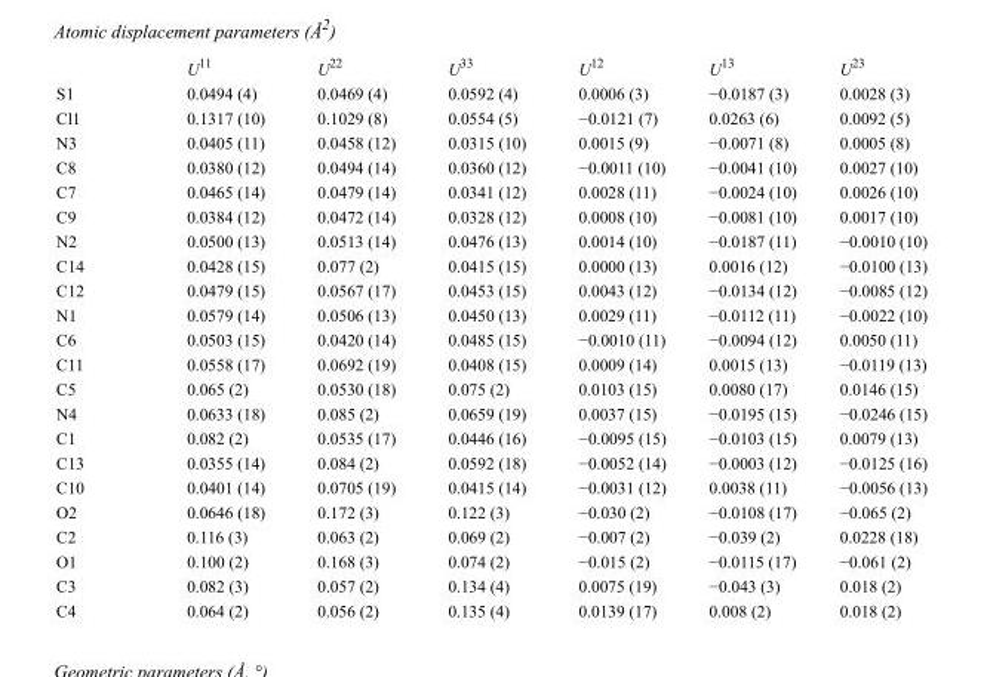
<table><thead><tr><td></td><td>U<sup>11</sup></td><td>U<sup>22</sup></td><td>U<sup>33</sup></td><td>U<sup>12</sup></td><td>U<sup>13</sup></td><td>U<sup>23</sup></td></tr></thead><tbody><tr><td>S1</td><td>0.0494 (4)</td><td>0.0469 (4)</td><td>0.0592 (4)</td><td>0.0006 (3)</td><td>−0.0187 (3)</td><td>0.0028 (3)</td></tr><tr><td>Cl1</td><td>0.1317 (10)</td><td>0.1029 (8)</td><td>0.0554 (5)</td><td>−0.0121 (7)</td><td>0.0263 (6)</td><td>0.0092 (5)</td></tr><tr><td>N3</td><td>0.0405 (11)</td><td>0.0458 (12)</td><td>0.0315 (10)</td><td>0.0015 (9)</td><td>−0.0071 (8)</td><td>0.0005 (8)</td></tr><tr><td>C8</td><td>0.0380 (12)</td><td>0.0494 (14)</td><td>0.0360 (12)</td><td>−0.0011 (10)</td><td>−0.0041 (10)</td><td>0.0027 (10)</td></tr><tr><td>C7</td><td>0.0465 (14)</td><td>0.0479 (14)</td><td>0.0341 (12)</td><td>0.0028 (11)</td><td>−0.0024 (10)</td><td>0.0026 (10)</td></tr><tr><td>C9</td><td>0.0384 (12)</td><td>0.0472 (14)</td><td>0.0328 (12)</td><td>0.0008 (10)</td><td>−0.0081 (10)</td><td>0.0017 (10)</td></tr><tr><td>N2</td><td>0.0500 (13)</td><td>0.0513 (14)</td><td>0.0476 (13)</td><td>0.0014 (10)</td><td>−0.0187 (11)</td><td>−0.0010 (10)</td></tr><tr><td>C14</td><td>0.0428 (15)</td><td>0.077 (2)</td><td>0.0415 (15)</td><td>0.0000 (13)</td><td>0.0016 (12)</td><td>−0.0100 (13)</td></tr><tr><td>C12</td><td>0.0479 (15)</td><td>0.0567 (17)</td><td>0.0453 (15)</td><td>0.0043 (12)</td><td>−0.0134 (12)</td><td>−0.0085 (12)</td></tr><tr><td>N1</td><td>0.0579 (14)</td><td>0.0506 (13)</td><td>0.0450 (13)</td><td>0.0029 (11)</td><td>−0.0112 (11)</td><td>−0.0022 (10)</td></tr><tr><td>C6</td><td>0.0503 (15)</td><td>0.0420 (14)</td><td>0.0485 (15)</td><td>−0.0010 (11)</td><td>−0.0094 (12)</td><td>0.0050 (11)</td></tr><tr><td>C11</td><td>0.0558 (17)</td><td>0.0692 (19)</td><td>0.0408 (15)</td><td>0.0009 (14)</td><td>0.0015 (13)</td><td>−0.0119 (13)</td></tr><tr><td>C5</td><td>0.065 (2)</td><td>0.0530 (18)</td><td>0.075 (2)</td><td>0.0103 (15)</td><td>0.0080 (17)</td><td>0.0146 (15)</td></tr><tr><td>N4</td><td>0.0633 (18)</td><td>0.085 (2)</td><td>0.0659 (19)</td><td>0.0037 (15)</td><td>−0.0195 (15)</td><td>−0.0246 (15)</td></tr><tr><td>C1</td><td>0.082 (2)</td><td>0.0535 (17)</td><td>0.0446 (16)</td><td>−0.0095 (15)</td><td>−0.0103 (15)</td><td>0.0079 (13)</td></tr><tr><td>C13</td><td>0.0355 (14)</td><td>0.084 (2)</td><td>0.0592 (18)</td><td>−0.0052 (14)</td><td>−0.0003 (12)</td><td>−0.0125 (16)</td></tr><tr><td>C10</td><td>0.0401 (14)</td><td>0.0705 (19)</td><td>0.0415 (14)</td><td>−0.0031 (12)</td><td>0.0038 (11)</td><td>−0.0056 (13)</td></tr><tr><td>O2</td><td>0.0646 (18)</td><td>0.172 (3)</td><td>0.122 (3)</td><td>−0.030 (2)</td><td>−0.0108 (17)</td><td>−0.065 (2)</td></tr><tr><td>C2</td><td>0.116 (3)</td><td>0.063 (2)</td><td>0.069 (2)</td><td>−0.007 (2)</td><td>−0.039 (2)</td><td>0.0228 (18)</td></tr><tr><td>O1</td><td>0.100 (2)</td><td>0.168 (3)</td><td>0.074 (2)</td><td>−0.015 (2)</td><td>−0.0115 (17)</td><td>−0.061 (2)</td></tr><tr><td>C3</td><td>0.082 (3)</td><td>0.057 (2)</td><td>0.134 (4)</td><td>0.0075 (19)</td><td>−0.043 (3)</td><td>0.018 (2)</td></tr><tr><td>C4</td><td>0.064 (2)</td><td>0.056 (2)</td><td>0.135 (4)</td><td>0.0139 (17)</td><td>0.008 (2)</td><td>0.018 (2)</td></tr></tbody></table>